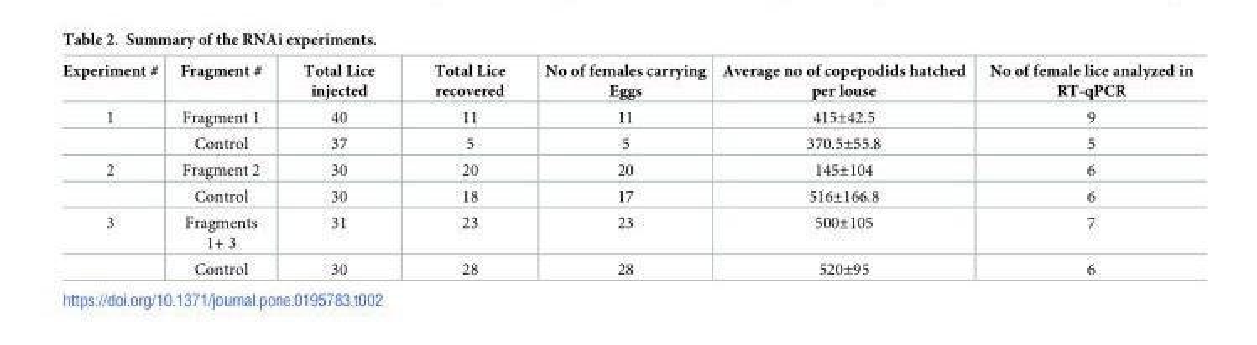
<table><thead><tr><td>Experiment #</td><td>Fragment #</td><td>Total Lice injected</td><td>Total Lice recovered</td><td>No of females carrying Eggs</td><td>Average no of copepodids hatched per louse</td><td>No of female lice analyzed in RT-qPCR</td></tr></thead><tbody><tr><td rowspan="2">1</td><td>Fragment 1</td><td>40</td><td>11</td><td>11</td><td>415±42.5</td><td>9</td></tr><tr><td>Control</td><td>37</td><td>5</td><td>5</td><td>370.5±55.8</td><td>5</td></tr><tr><td rowspan="2">2</td><td>Fragment 2</td><td>30</td><td>20</td><td>20</td><td>145±104</td><td>6</td></tr><tr><td>Control</td><td>30</td><td>18</td><td>17</td><td>516±166.8</td><td>6</td></tr><tr><td rowspan="2">3</td><td>Fragments 1+ 3</td><td>31</td><td>23</td><td>23</td><td>500±105</td><td>7</td></tr><tr><td>Control</td><td>30</td><td>28</td><td>28</td><td>520±95</td><td>6</td></tr></tbody></table>